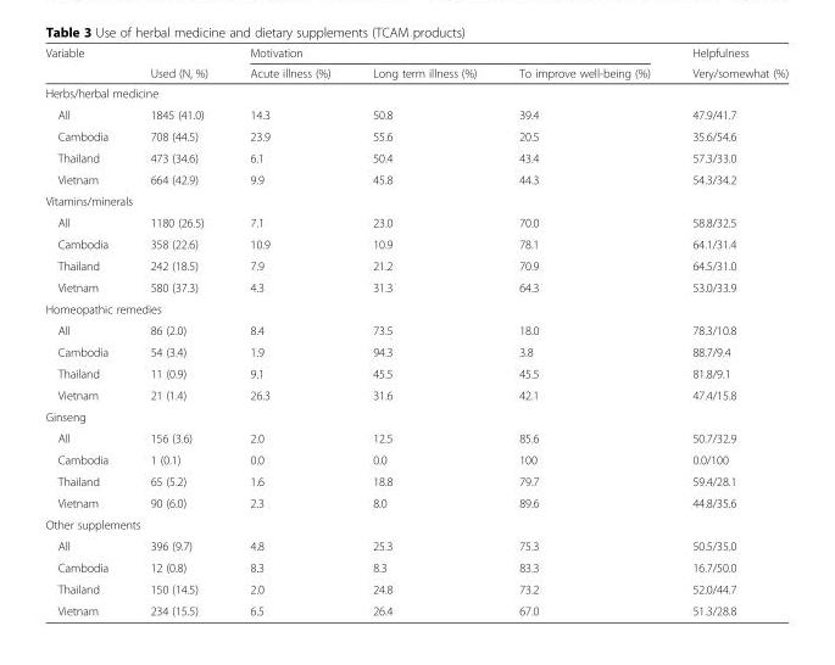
<table><thead><tr><td rowspan="2">Variable</td><td rowspan="2">Used (N, %)</td><td colspan="3">Motivation</td><td rowspan="2">Helpfulness Very/somewhat (%)</td></tr><tr><td>Acute illness (%)</td><td>Long term illness (%)</td><td>To improve well-being (%)</td></tr></thead><tbody><tr><td colspan="6">Herbs/herbal medicine</td></tr><tr><td>All</td><td>1845 (41.0)</td><td>14.3</td><td>50.8</td><td>39.4</td><td>47.9/41.7</td></tr><tr><td>Cambodia</td><td>708 (44.5)</td><td>23.9</td><td>55.6</td><td>20.5</td><td>35.6/54.6</td></tr><tr><td>Thailand</td><td>473 (34.6)</td><td>6.1</td><td>50.4</td><td>43.4</td><td>57.3/33.0</td></tr><tr><td>Vietnam</td><td>664 (42.9)</td><td>9.9</td><td>45.8</td><td>44.3</td><td>54.3/34.2</td></tr><tr><td colspan="6">Vitamins/minerals</td></tr><tr><td>All</td><td>1180 (26.5)</td><td>7.1</td><td>23.0</td><td>70.0</td><td>58.8/32.5</td></tr><tr><td>Cambodia</td><td>358 (22.6)</td><td>10.9</td><td>10.9</td><td>78.1</td><td>64.1/31.4</td></tr><tr><td>Thailand</td><td>242 (18.5)</td><td>7.9</td><td>21.2</td><td>70.9</td><td>64.5/31.0</td></tr><tr><td>Vietnam</td><td>580 (37.3)</td><td>4.3</td><td>31.3</td><td>64.3</td><td>53.0/33.9</td></tr><tr><td colspan="6">Homeopathic remedies</td></tr><tr><td>All</td><td>86 (2.0)</td><td>8.4</td><td>73.5</td><td>18.0</td><td>78.3/10.8</td></tr><tr><td>Cambodia</td><td>54 (3.4)</td><td>1.9</td><td>94.3</td><td>3.8</td><td>88.7/9.4</td></tr><tr><td>Thailand</td><td>11 (0.9)</td><td>9.1</td><td>45.5</td><td>45.5</td><td>81.8/9.1</td></tr><tr><td>Vietnam</td><td>21 (1.4)</td><td>26.3</td><td>31.6</td><td>42.1</td><td>47.4/15.8</td></tr><tr><td colspan="6">Ginseng</td></tr><tr><td>All</td><td>156 (3.6)</td><td>2.0</td><td>12.5</td><td>85.6</td><td>50.7/32.9</td></tr><tr><td>Cambodia</td><td>1 (0.1)</td><td>0.0</td><td>0.0</td><td>100</td><td>0.0/100</td></tr><tr><td>Thailand</td><td>65 (5.2)</td><td>1.6</td><td>18.8</td><td>79.7</td><td>59.4/28.1</td></tr><tr><td>Vietnam</td><td>90 (6.0)</td><td>2.3</td><td>8.0</td><td>89.6</td><td>44.8/35.6</td></tr><tr><td colspan="6">Other supplements</td></tr><tr><td>All</td><td>396 (9.7)</td><td>4.8</td><td>25.3</td><td>75.3</td><td>50.5/35.0</td></tr><tr><td>Cambodia</td><td>12 (0.8)</td><td>8.3</td><td>8.3</td><td>83.3</td><td>16.7/50.0</td></tr><tr><td>Thailand</td><td>150 (14.5)</td><td>2.0</td><td>24.8</td><td>73.2</td><td>52.0/44.7</td></tr><tr><td>Vietnam</td><td>234 (15.5)</td><td>6.5</td><td>26.4</td><td>67.0</td><td>51.3/28.8</td></tr></tbody></table>